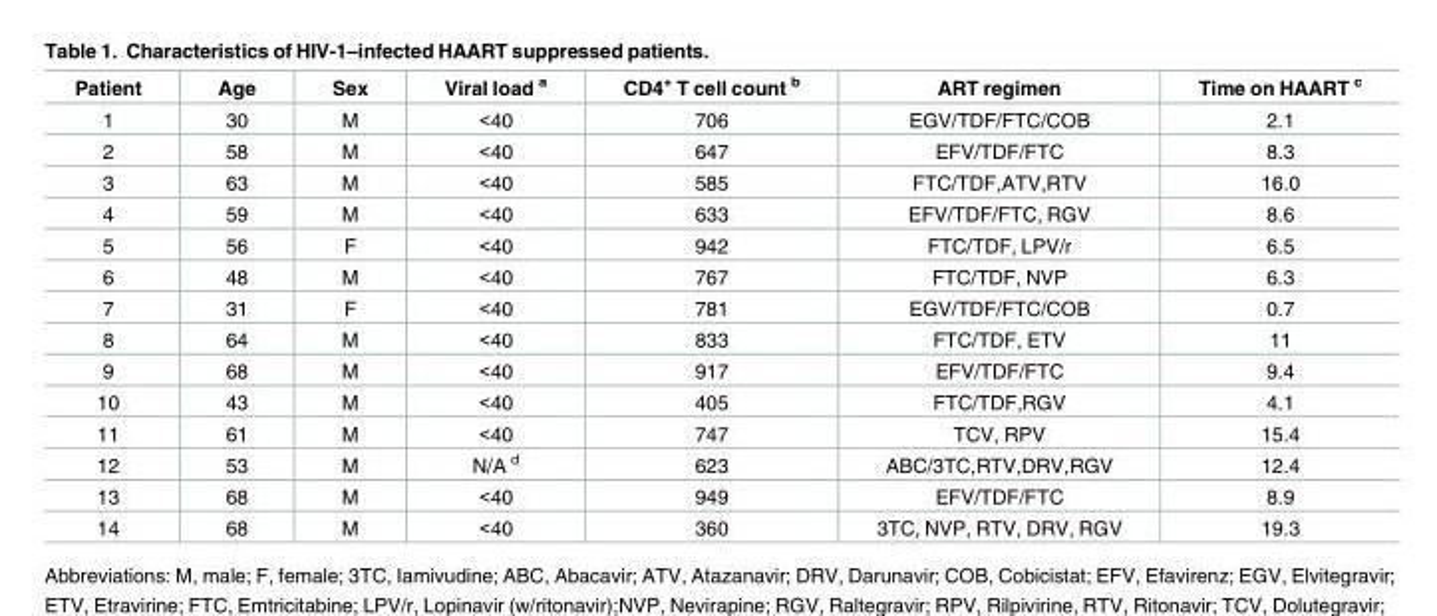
<table><thead><tr><td>Patient</td><td>Age</td><td>Sex</td><td>Viral load <sup>a</sup></td><td>CD4<sup>+</sup> T cell count <sup>b</sup></td><td>ART regimen</td><td>Time on HAART <sup>c</sup></td></tr></thead><tbody><tr><td>1</td><td>30</td><td>M</td><td>&lt;40</td><td>706</td><td>EGV/TDF/FTC/COB</td><td>2.1</td></tr><tr><td>2</td><td>58</td><td>M</td><td>&lt;40</td><td>647</td><td>EFV/TDF/FTC</td><td>8.3</td></tr><tr><td>3</td><td>63</td><td>M</td><td>&lt;40</td><td>585</td><td>FTC/TDF,ATV,RTV</td><td>16.0</td></tr><tr><td>4</td><td>59</td><td>M</td><td>&lt;40</td><td>633</td><td>EFV/TDF/FTC, RGV</td><td>8.6</td></tr><tr><td>5</td><td>56</td><td>F</td><td>&lt;40</td><td>942</td><td>FTC/TDF, LPV/r</td><td>6.5</td></tr><tr><td>6</td><td>48</td><td>M</td><td>&lt;40</td><td>767</td><td>FTC/TDF, NVP</td><td>6.3</td></tr><tr><td>7</td><td>31</td><td>F</td><td>&lt;40</td><td>781</td><td>EGV/TDF/FTC/COB</td><td>0.7</td></tr><tr><td>8</td><td>64</td><td>M</td><td>&lt;40</td><td>833</td><td>FTC/TDF, ETV</td><td>11</td></tr><tr><td>9</td><td>68</td><td>M</td><td>&lt;40</td><td>917</td><td>EFV/TDF/FTC</td><td>9.4</td></tr><tr><td>10</td><td>43</td><td>M</td><td>&lt;40</td><td>405</td><td>FTC/TDF,RGV</td><td>4.1</td></tr><tr><td>11</td><td>61</td><td>M</td><td>&lt;40</td><td>747</td><td>TCV, RPV</td><td>15.4</td></tr><tr><td>12</td><td>53</td><td>M</td><td>N/A <sup>d</sup></td><td>623</td><td>ABC/3TC,RTV,DRV,RGV</td><td>12.4</td></tr><tr><td>13</td><td>68</td><td>M</td><td>&lt;40</td><td>949</td><td>EFV/TDF/FTC</td><td>8.9</td></tr><tr><td>14</td><td>68</td><td>M</td><td>&lt;40</td><td>360</td><td>3TC, NVP, RTV, DRV, RGV</td><td>19.3</td></tr></tbody></table>